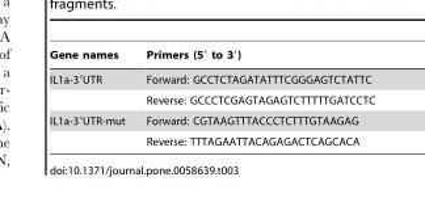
<table><thead><tr><td>Gene names</td><td>Primers (5′ to 3′)</td></tr></thead><tbody><tr><td rowspan="2">IL1a-3′UTR</td><td>Forward: GCCTCTAGATATTTCGGGAGTCTATTC</td></tr><tr><td>Reverse: GCCCTCGAGTAGAGTCTTTTTGATCCTC</td></tr><tr><td rowspan="2">IL1a-3′UTR-mut</td><td>Forward: CGTAAGTTTACCCTCTTTGTAAGAG</td></tr><tr><td>Reverse: TTTAGAATTACAGAGACTCAGCACA</td></tr></tbody></table>